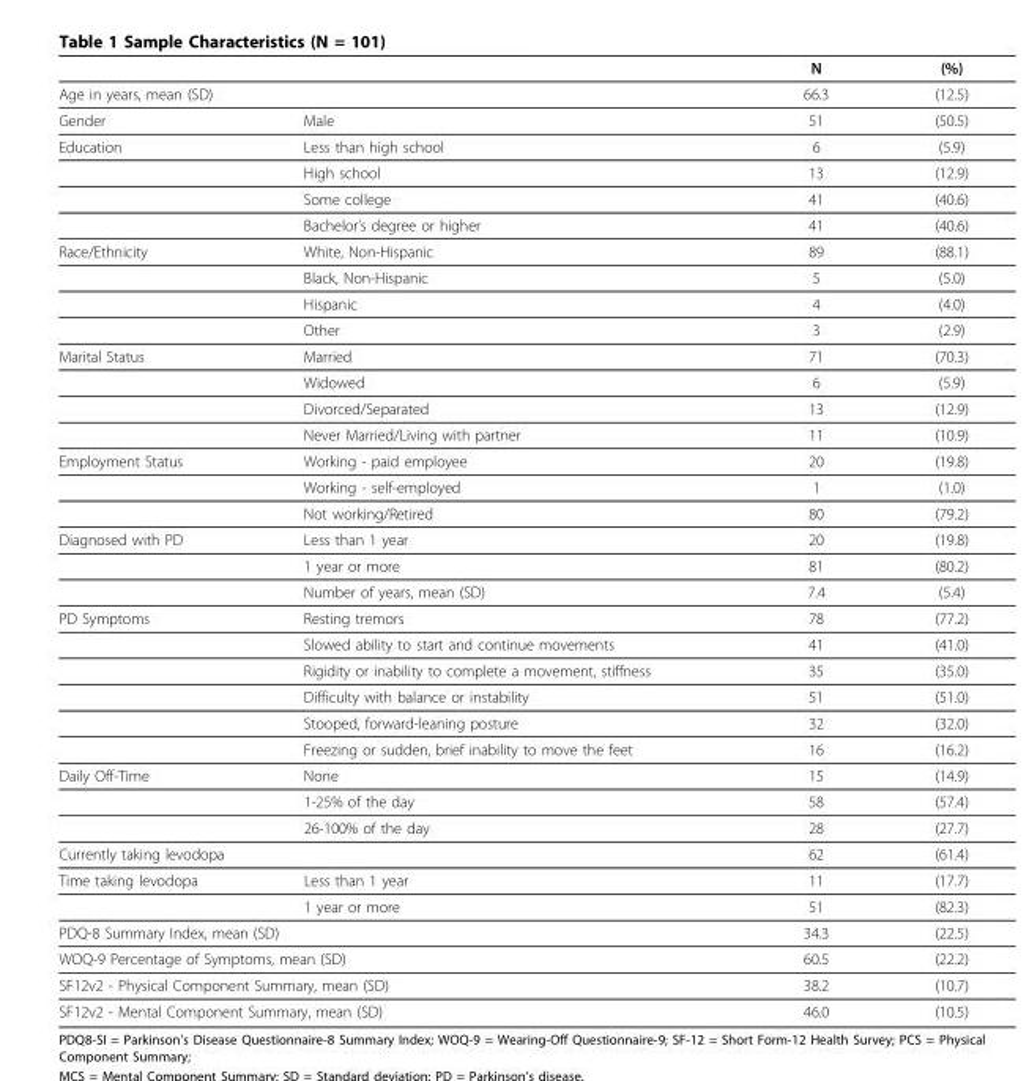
<table><thead><tr><td></td><td></td><td>N</td><td>(%)</td></tr></thead><tbody><tr><td colspan="2">Age in years, mean (SD)</td><td>66.3</td><td>(12.5)</td></tr><tr><td>Gender</td><td>Male</td><td>51</td><td>(50.5)</td></tr><tr><td rowspan="4">Education</td><td>Less than high school</td><td>6</td><td>(5.9)</td></tr><tr><td>High school</td><td>13</td><td>(12.9)</td></tr><tr><td>Some college</td><td>41</td><td>(40.6)</td></tr><tr><td>Bachelor’s degree or higher</td><td>41</td><td>(40.6)</td></tr><tr><td rowspan="4">Race/Ethnicity</td><td>White, Non-Hispanic</td><td>89</td><td>(88.1)</td></tr><tr><td>Black, Non-Hispanic</td><td>5</td><td>(5.0)</td></tr><tr><td>Hispanic</td><td>4</td><td>(4.0)</td></tr><tr><td>Other</td><td>3</td><td>(2.9)</td></tr><tr><td rowspan="4">Marital Status</td><td>Married</td><td>71</td><td>(70.3)</td></tr><tr><td>Widowed</td><td>6</td><td>(5.9)</td></tr><tr><td>Divorced/Separated</td><td>13</td><td>(12.9)</td></tr><tr><td>Never Married/Living with partner</td><td>11</td><td>(10.9)</td></tr><tr><td rowspan="3">Employment Status</td><td>Working - paid employee</td><td>20</td><td>(19.8)</td></tr><tr><td>Working - self-employed</td><td>1</td><td>(1.0)</td></tr><tr><td>Not working/Retired</td><td>80</td><td>(79.2)</td></tr><tr><td rowspan="3">Diagnosed with PD</td><td>Less than 1 year</td><td>20</td><td>(19.8)</td></tr><tr><td>1 year or more</td><td>81</td><td>(80.2)</td></tr><tr><td>Number of years, mean (SD)</td><td>7.4</td><td>(5.4)</td></tr><tr><td rowspan="6">PD Symptoms</td><td>Resting tremors</td><td>78</td><td>(77.2)</td></tr><tr><td>Slowed ability to start and continue movements</td><td>41</td><td>(41.0)</td></tr><tr><td>Rigidity or inability to complete a movement, stiffness</td><td>35</td><td>(35.0)</td></tr><tr><td>Difficulty with balance or instability</td><td>51</td><td>(51.0)</td></tr><tr><td>Stooped, forward-leaning posture</td><td>32</td><td>(32.0)</td></tr><tr><td>Freezing or sudden, brief inability to move the feet</td><td>16</td><td>(16.2)</td></tr><tr><td rowspan="3">Daily Off-Time</td><td>None</td><td>15</td><td>(14.9)</td></tr><tr><td>1-25% of the day</td><td>58</td><td>(57.4)</td></tr><tr><td>26-100% of the day</td><td>28</td><td>(27.7)</td></tr><tr><td colspan="2">Currently taking levodopa</td><td>62</td><td>(61.4)</td></tr><tr><td rowspan="2">Time taking levodopa</td><td>Less than 1 year</td><td>11</td><td>(17.7)</td></tr><tr><td>1 year or more</td><td>51</td><td>(82.3)</td></tr><tr><td colspan="2">PDQ-8 Summary Index, mean (SD)</td><td>34.3</td><td>(22.5)</td></tr><tr><td colspan="2">WOQ-9 Percentage of Symptoms, mean (SD)</td><td>60.5</td><td>(22.2)</td></tr><tr><td colspan="2">SF12v2 - Physical Component Summary, mean (SD)</td><td>38.2</td><td>(10.7)</td></tr><tr><td colspan="2">SF12v2 - Mental Component Summary, mean (SD)</td><td>46.0</td><td>(10.5)</td></tr></tbody></table>